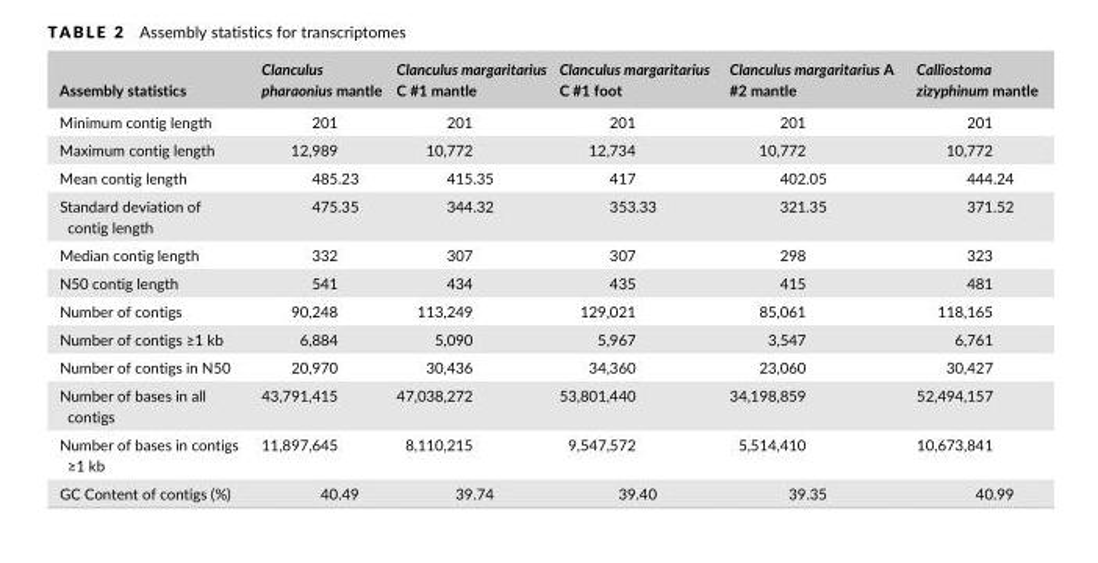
<table><thead><tr><td>Assembly statistics</td><td>Clanculus pharaonius mantle</td><td>Clanculus margaritarius C #1 mantle</td><td>Clanculus margaritarius C #1 foot</td><td>Clanculus margaritarius A #2 mantle</td><td>Calliostoma zizyphinum mantle</td></tr></thead><tbody><tr><td>Minimum contig length</td><td>201</td><td>201</td><td>201</td><td>201</td><td>201</td></tr><tr><td>Maximum contig length</td><td>12,989</td><td>10,772</td><td>12,734</td><td>10,772</td><td>10,772</td></tr><tr><td>Mean contig length</td><td>485.23</td><td>415.35</td><td>417</td><td>402.05</td><td>444.24</td></tr><tr><td>Standard deviation of contig length</td><td>475.35</td><td>344.32</td><td>353.33</td><td>321.35</td><td>371.52</td></tr><tr><td>Median contig length</td><td>332</td><td>307</td><td>307</td><td>298</td><td>323</td></tr><tr><td>N50 contig length</td><td>541</td><td>434</td><td>435</td><td>415</td><td>481</td></tr><tr><td>Number of contigs</td><td>90,248</td><td>113,249</td><td>129,021</td><td>85,061</td><td>118,165</td></tr><tr><td>Number of contigs ≥1 kb</td><td>6,884</td><td>5,090</td><td>5,967</td><td>3,547</td><td>6,761</td></tr><tr><td>Number of contigs in N50</td><td>20,970</td><td>30,436</td><td>34,360</td><td>23,060</td><td>30,427</td></tr><tr><td>Number of bases in all contigs</td><td>43,791,415</td><td>47,038,272</td><td>53,801,440</td><td>34,198,859</td><td>52,494,157</td></tr><tr><td>Number of bases in contigs ≥1 kb</td><td>11,897,645</td><td>8,110,215</td><td>9,547,572</td><td>5,514,410</td><td>10,673,841</td></tr><tr><td>GC Content of contigs (%)</td><td>40.49</td><td>39.74</td><td>39.40</td><td>39.35</td><td>40.99</td></tr></tbody></table>